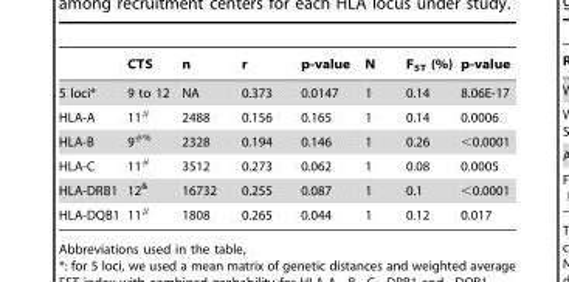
<table><thead><tr><td></td><td>CTS</td><td>n</td><td>r</td><td>p-value</td><td>N</td><td>F<sub>ST</sub> (%)</td><td>p-value</td></tr></thead><tbody><tr><td>5 loci*</td><td>9 to 12</td><td>NA</td><td>0.373</td><td>0.0147</td><td>1</td><td>0.14</td><td>8.06E-17</td></tr><tr><td>HLA-A</td><td>11#</td><td>2488</td><td>0.156</td><td>0.165</td><td>1</td><td>0.14</td><td>0.0006</td></tr><tr><td>HLA-B</td><td>9#%</td><td>2328</td><td>0.194</td><td>0.146</td><td>1</td><td>0.26</td><td>&lt;0.0001</td></tr><tr><td>HLA-C</td><td>11#</td><td>3512</td><td>0.273</td><td>0.062</td><td>1</td><td>0.08</td><td>0.0005</td></tr><tr><td>HLA-DRB1</td><td>12&amp;</td><td>16732</td><td>0.255</td><td>0.087</td><td>1</td><td>0.1</td><td>&lt;0.0001</td></tr><tr><td>HLA-DQB1</td><td>11#</td><td>1808</td><td>0.265</td><td>0.044</td><td>1</td><td>0.12</td><td>0.017</td></tr></tbody></table>